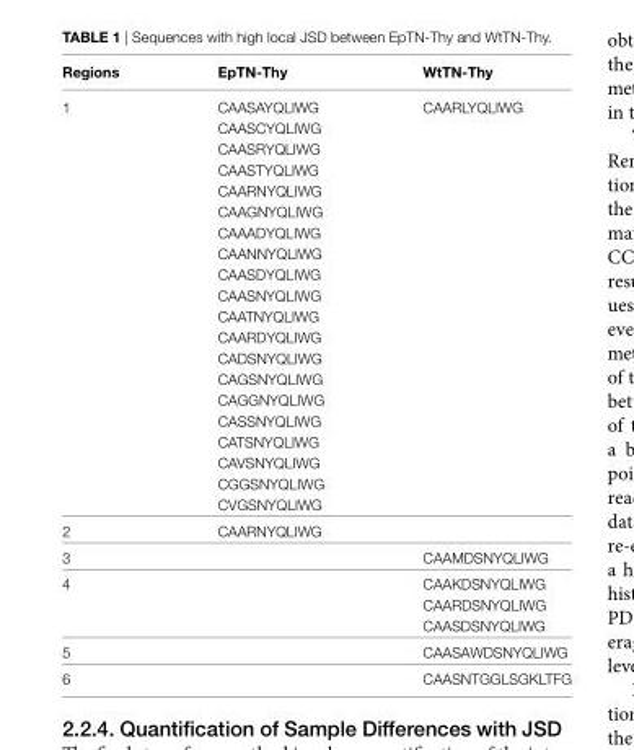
<table><thead><tr><td>Regions</td><td>eptN-thy</td><td>WttN-thy</td></tr></thead><tbody><tr><td rowspan="20">1</td><td>CAASAYQLIWG</td><td>CAARLYQLIWG</td></tr><tr><td>CAASCYQLIWG</td><td></td></tr><tr><td>CAASRYQLIWG</td><td></td></tr><tr><td>CAASTYQLIWG</td><td></td></tr><tr><td>CAARNYQLIWG</td><td></td></tr><tr><td>CAAGNYQLIWG</td><td></td></tr><tr><td>CAAADYQLIWG</td><td></td></tr><tr><td>CAANNYQLIWG</td><td></td></tr><tr><td>CAASDYQLIWG</td><td></td></tr><tr><td>CAASNYQLIWG</td><td></td></tr><tr><td>CAATNYQLIWG</td><td></td></tr><tr><td>CAARDYQLIWG</td><td></td></tr><tr><td>CADSNYQLIWG</td><td></td></tr><tr><td>CAGSNYQLIWG</td><td></td></tr><tr><td>CAGGNYQLIWG</td><td></td></tr><tr><td>CASSNYQLIWG</td><td></td></tr><tr><td>CATSNYQLIWG</td><td></td></tr><tr><td>CAVSNYQLIWG</td><td></td></tr><tr><td>CGGSNYQLIWG</td><td></td></tr><tr><td>CVGSNYQLIWG</td><td></td></tr><tr><td>2</td><td>CAARNYQLIWG</td><td></td></tr><tr><td>3</td><td></td><td>CAAMDSNYQLIWG</td></tr><tr><td rowspan="3">4</td><td></td><td>CAAKDSNYQLIWG</td></tr><tr><td></td><td>CAARDSNYQLIWG</td></tr><tr><td></td><td>CAASDSNYQLIWG</td></tr><tr><td>5</td><td></td><td>CAASAWDSNYQLIWG</td></tr><tr><td>6</td><td></td><td>CAASNTGGLSGKLTFG</td></tr></tbody></table>